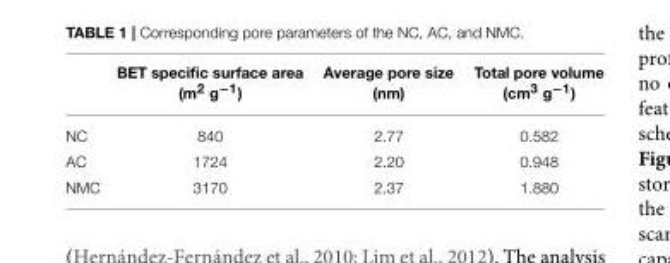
<table><thead><tr><td></td><td>BET specific surface area (m<sup>2</sup> g<sup>−1</sup>)</td><td>Average pore size (nm)</td><td>Total pore volume (cm<sup>3</sup> g<sup>−1</sup>)</td></tr></thead><tbody><tr><td>NC</td><td>840</td><td>2.77</td><td>0.582</td></tr><tr><td>AC</td><td>1724</td><td>2.20</td><td>0.948</td></tr><tr><td>NMC</td><td>3170</td><td>2.37</td><td>1.880</td></tr></tbody></table>